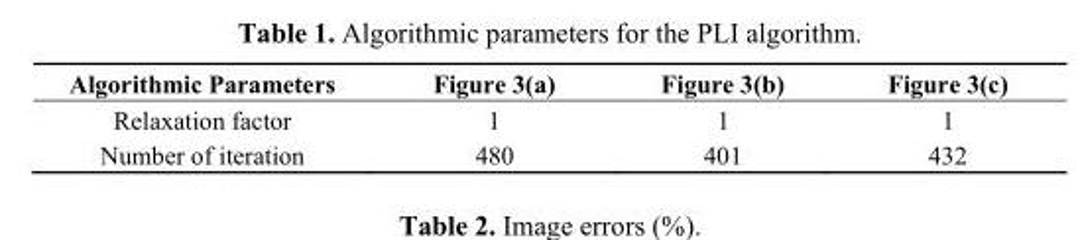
<table><thead><tr><td>Algorithmic Parameters</td><td>Figure 3(a)</td><td>Figure 3(b)</td><td>Figure 3(c)</td></tr></thead><tbody><tr><td>Relaxation factor</td><td>1</td><td>1</td><td>1</td></tr><tr><td>Number of iteration</td><td>480</td><td>401</td><td>432</td></tr></tbody></table>